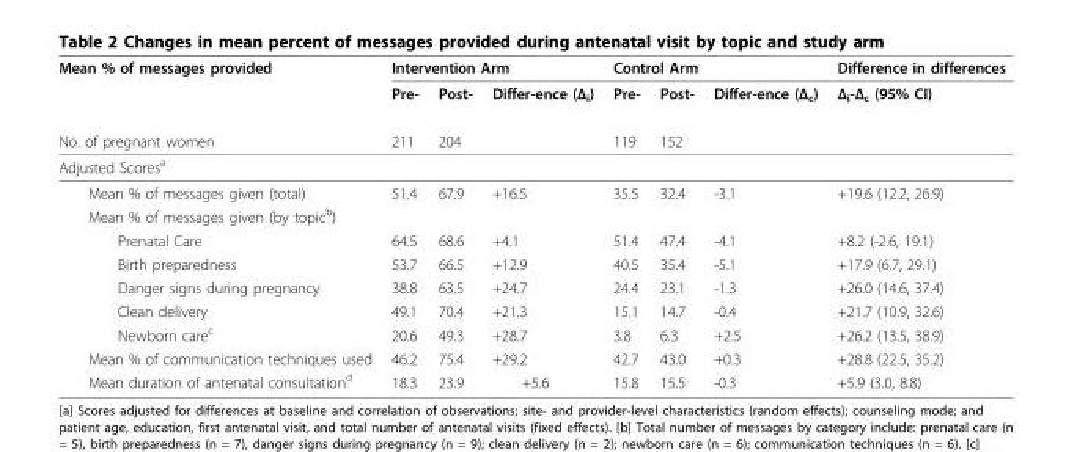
<table><thead><tr><td rowspan="3">Mean % of messages provided No. of pregnant women</td><td colspan="3">Intervention Arm</td><td colspan="3">Control Arm</td><td rowspan="3">Difference in differences Δi-Δc (95% CI)</td></tr><tr><td rowspan="2">Pre- 211</td><td rowspan="2">Post- 204</td><td rowspan="2">Differ-ence (Δi)</td><td rowspan="2">Pre- 119</td><td rowspan="2">Post- 152</td><td rowspan="2">Differ-ence (Δc)</td></tr><tr></tr></thead><tbody><tr><td colspan="8">Adjusted Scoresa</td></tr><tr><td>Mean % of messages given (total)</td><td>51.4</td><td>67.9</td><td>+16.5</td><td>35.5</td><td>32.4</td><td>-3.1</td><td>+19.6 (12.2, 26.9)</td></tr><tr><td colspan="8">Mean % of messages given (by topic<sup>b</sup>)</td></tr><tr><td>Prenatal Care</td><td>64.5</td><td>68.6</td><td>+4.1</td><td>51.4</td><td>47.4</td><td>-4.1</td><td>+8.2 (-2.6, 19.1)</td></tr><tr><td>Birth preparedness</td><td>53.7</td><td>66.5</td><td>+12.9</td><td>40.5</td><td>35.4</td><td>-5.1</td><td>+17.9 (6.7, 29.1)</td></tr><tr><td>Danger signs during pregnancy</td><td>38.8</td><td>63.5</td><td>+24.7</td><td>24.4</td><td>23.1</td><td>-1.3</td><td>+26.0 (14.6, 37.4)</td></tr><tr><td>Clean delivery</td><td>49.1</td><td>70.4</td><td>+21.3</td><td>15.1</td><td>14.7</td><td>-0.4</td><td>+21.7 (10.9, 32.6)</td></tr><tr><td>Newborn care<sup>c</sup></td><td>20.6</td><td>49.3</td><td>+28.7</td><td>3.8</td><td>6.3</td><td>+2.5</td><td>+26.2 (13.5, 38.9)</td></tr><tr><td>Mean % of communication techniques used</td><td>46.2</td><td>75.4</td><td>+29.2</td><td>42.7</td><td>43.0</td><td>+0.3</td><td>+28.8 (22.5, 35.2)</td></tr><tr><td>Mean duration of antenatal consultation<sup>d</sup></td><td>18.3</td><td>23.9</td><td>+5.6</td><td>15.8</td><td>15.5</td><td>-0.3</td><td>+5.9 (3.0, 8.8)</td></tr></tbody></table>